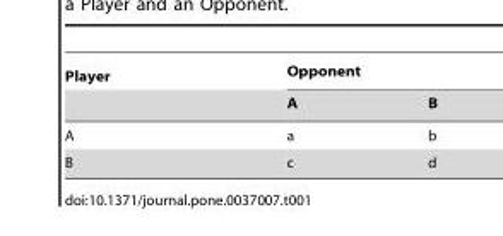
<table><thead><tr><td rowspan="2">Player</td><td colspan="2">Opponent</td></tr><tr><td>A</td><td>B</td></tr></thead><tbody><tr><td>A</td><td>a</td><td>b</td></tr><tr><td>B</td><td>c</td><td>d</td></tr></tbody></table>